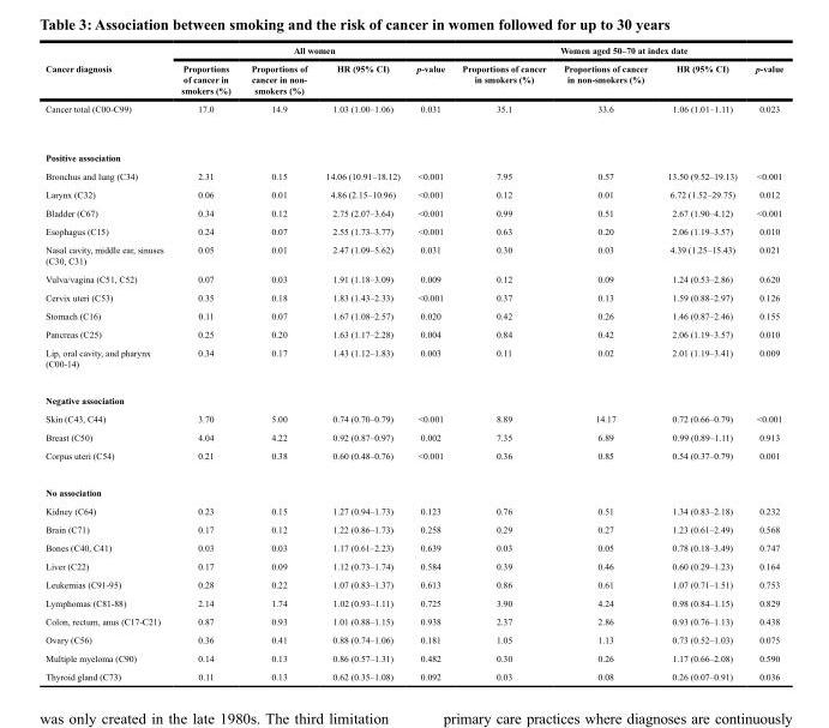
<table><thead><tr><td rowspan="2">Cancer diagnosis</td><td colspan="4">All women</td><td colspan="4">Women aged 50–70 at index date</td></tr><tr><td>Proportions of cancer in smokers (%)</td><td>Proportions of cancer in non- smokers (%)</td><td>HR (95% CI)</td><td>p-value</td><td>Proportions of cancer in smokers (%)</td><td>Proportions of cancer in non-smokers (%)</td><td>HR (95% CI)</td><td>p-value</td></tr></thead><tbody><tr><td>Cancer total (C00-C99)</td><td>17.0</td><td>14.9</td><td>1.03 (1.00–1.06)</td><td>0.031</td><td>35.1</td><td>33.6</td><td>1.06 (1.01–1.11)</td><td>0.023</td></tr><tr><td colspan="9">Positive association</td></tr><tr><td>Bronchus and lung (C34)</td><td>2.31</td><td>0.15</td><td>14.06 (10.91–18.12)</td><td>&lt;0.001</td><td>7.95</td><td>0.57</td><td>13.50 (9.52–19.13)</td><td>&lt;0.001</td></tr><tr><td>Larynx (C32)</td><td>0.06</td><td>0.01</td><td>4.86 (2.15–10.96)</td><td>&lt;0.001</td><td>0.12</td><td>0.01</td><td>6.72 (1.52–29.75)</td><td>0.012</td></tr><tr><td>Bladder (C67)</td><td>0.34</td><td>0.12</td><td>2.75 (2.07–3.64)</td><td>&lt;0.001</td><td>0.99</td><td>0.51</td><td>2.67 (1.90–4.12)</td><td>&lt;0.001</td></tr><tr><td>Esophagus (C15)</td><td>0.24</td><td>0.07</td><td>2.55 (1.73–3.77)</td><td>&lt;0.001</td><td>0.63</td><td>0.20</td><td>2.06 (1.19–3.57)</td><td>0.010</td></tr><tr><td>Nasal cavity, middle ear, sinuses (C30, C31)</td><td>0.05</td><td>0.01</td><td>2.47 (1.09–5.62)</td><td>0.031</td><td>0.30</td><td>0.03</td><td>4.39 (1.25–15.43)</td><td>0.021</td></tr><tr><td>Vulva/vagina (C51, C52)</td><td>0.07</td><td>0.03</td><td>1.91 (1.18–3.09)</td><td>0.009</td><td>0.12</td><td>0.09</td><td>1.24 (0.53–2.86)</td><td>0.620</td></tr><tr><td>Cervix uteri (C53)</td><td>0.35</td><td>0.18</td><td>1.83 (1.43–2.33)</td><td>&lt;0.001</td><td>0.37</td><td>0.13</td><td>1.59 (0.88–2.97)</td><td>0.126</td></tr><tr><td>Stomach (C16)</td><td>0.11</td><td>0.07</td><td>1.67 (1.08–2.57)</td><td>0.020</td><td>0.42</td><td>0.26</td><td>1.46 (0.87–2.46)</td><td>0.155</td></tr><tr><td>Pancreas (C25)</td><td>0.25</td><td>0.20</td><td>1.63 (1.17–2.28)</td><td>0.004</td><td>0.84</td><td>0.42</td><td>2.06 (1.19–3.57)</td><td>0.010</td></tr><tr><td>Lip, oral cavity, and pharynx (C00-14)</td><td>0.34</td><td>0.17</td><td>1.43 (1.12–1.83)</td><td>0.003</td><td>0.11</td><td>0.02</td><td>2.01 (1.19–3.41)</td><td>0.009</td></tr><tr><td colspan="9">Negative association</td></tr><tr><td>Skin (C43, C44)</td><td>3.70</td><td>5.00</td><td>0.74 (0.70–0.79)</td><td>&lt;0.001</td><td>8.89</td><td>14.17</td><td>0.72 (0.66–0.79)</td><td>&lt;0.001</td></tr><tr><td>Breast (C50)</td><td>4.04</td><td>4.22</td><td>0.92 (0.87–0.97)</td><td>0.002</td><td>7.35</td><td>6.89</td><td>0.99 (0.89–1.11)</td><td>0.913</td></tr><tr><td>Corpus uteri (C54)</td><td>0.21</td><td>0.38</td><td>0.60 (0.48–0.76)</td><td>&lt;0.001</td><td>0.36</td><td>0.85</td><td>0.54 (0.37–0.79)</td><td>0.001</td></tr><tr><td colspan="9">No association</td></tr><tr><td>Kidney (C64)</td><td>0.23</td><td>0.15</td><td>1.27 (0.94–1.73)</td><td>0.123</td><td>0.76</td><td>0.51</td><td>1.34 (0.83–2.18)</td><td>0.232</td></tr><tr><td>Brain (C71)</td><td>0.17</td><td>0.12</td><td>1.22 (0.86–1.73)</td><td>0.258</td><td>0.29</td><td>0.27</td><td>1.23 (0.61–2.49)</td><td>0.568</td></tr><tr><td>Bones (C40, C41)</td><td>0.03</td><td>0.03</td><td>1.17 (0.61–2.23)</td><td>0.639</td><td>0.03</td><td>0.05</td><td>0.78 (0.18–3.49)</td><td>0.747</td></tr><tr><td>Liver (C22)</td><td>0.17</td><td>0.09</td><td>1.12 (0.73–1.74)</td><td>0.584</td><td>0.39</td><td>0.46</td><td>0.60 (0.29–1.23)</td><td>0.164</td></tr><tr><td>Leukemias (C91-95)</td><td>0.28</td><td>0.22</td><td>1.07 (0.83–1.37)</td><td>0.613</td><td>0.86</td><td>0.61</td><td>1.07 (0.71–1.51)</td><td>0.753</td></tr><tr><td>Lymphomas (C81-88)</td><td>2.14</td><td>1.74</td><td>1.02 (0.93–1.11)</td><td>0.725</td><td>3.90</td><td>4.24</td><td>0.98 (0.84–1.15)</td><td>0.829</td></tr><tr><td>Colon, rectum, anus (C17-C21)</td><td>0.87</td><td>0.93</td><td>1.01 (0.88–1.15)</td><td>0.938</td><td>2.37</td><td>2.86</td><td>0.93 (0.76–1.13)</td><td>0.438</td></tr><tr><td>Ovary (C56)</td><td>0.36</td><td>0.41</td><td>0.88 (0.74–1.06)</td><td>0.181</td><td>1.05</td><td>1.13</td><td>0.73 (0.52–1.03)</td><td>0.075</td></tr><tr><td>Multiple myeloma (C90)</td><td>0.14</td><td>0.13</td><td>0.86 (0.57–1.31)</td><td>0.482</td><td>0.30</td><td>0.26</td><td>1.17 (0.66–2.08)</td><td>0.590</td></tr><tr><td>Thyroid gland (C73)</td><td>0.11</td><td>0.13</td><td>0.62 (0.35–1.08)</td><td>0.092</td><td>0.03</td><td>0.08</td><td>0.26 (0.07–0.91)</td><td>0.036</td></tr></tbody></table>